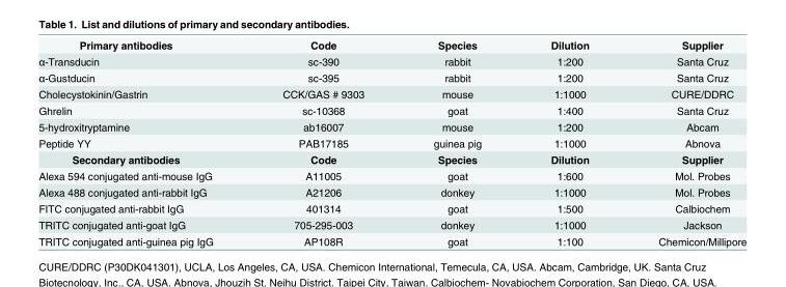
<table><tbody><tr><td>Primary antibodies</td><td>Code</td><td>Species</td><td>Dilution</td><td>Supplier</td></tr><tr><td>α-Transducin</td><td>sc-390</td><td>rabbit</td><td>1:200</td><td>Santa Cruz</td></tr><tr><td>α-Gustducin</td><td>sc-395</td><td>rabbit</td><td>1:200</td><td>Santa Cruz</td></tr><tr><td>Cholecystokinin/Gastrin</td><td>CCK/GAS # 9303</td><td>mouse</td><td>1:1000</td><td>CURE/DDRC</td></tr><tr><td>Ghrelin</td><td>sc-10368</td><td>goat</td><td>1:400</td><td>Santa Cruz</td></tr><tr><td>5-hydroxitryptamine</td><td>ab16007</td><td>mouse</td><td>1:200</td><td>Abcam</td></tr><tr><td>Peptide YY</td><td>PAB17185</td><td>guinea pig</td><td>1:1000</td><td>Abnova</td></tr><tr><td>Secondary antibodies</td><td>Code</td><td>Species</td><td>Dilution</td><td>Supplier</td></tr><tr><td>Alexa 594 conjugated anti-mouse IgG</td><td>A11005</td><td>goat</td><td>1:600</td><td>Mol. Probes</td></tr><tr><td>Alexa 488 conjugated anti-rabbit IgG</td><td>A21206</td><td>donkey</td><td>1:1000</td><td>Mol. Probes</td></tr><tr><td>FITC conjugated anti-rabbit IgG</td><td>401314</td><td>goat</td><td>1:500</td><td>Calbiochem</td></tr><tr><td>TRITC conjugated anti-goat IgG</td><td>705-295-003</td><td>donkey</td><td>1:1000</td><td>Jackson</td></tr><tr><td>TRITC conjugated anti-guinea pig IgG</td><td>AP108R</td><td>goat</td><td>1:100</td><td>Chemicon/Millipore</td></tr></tbody></table>